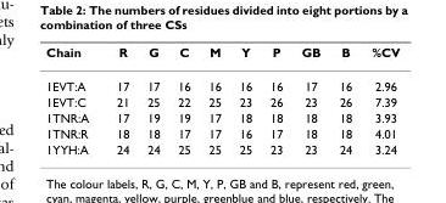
<table><thead><tr><td>Chain</td><td>R</td><td>G</td><td>C</td><td>M</td><td>Y</td><td>P</td><td>GB</td><td>B</td><td>%CV</td></tr></thead><tbody><tr><td>1EVT:A</td><td>17</td><td>17</td><td>16</td><td>16</td><td>16</td><td>16</td><td>17</td><td>16</td><td>2.96</td></tr><tr><td>1EVT:C</td><td>21</td><td>25</td><td>22</td><td>25</td><td>23</td><td>26</td><td>23</td><td>26</td><td>7.39</td></tr><tr><td>1TNR:A</td><td>17</td><td>19</td><td>19</td><td>17</td><td>18</td><td>18</td><td>18</td><td>18</td><td>3.93</td></tr><tr><td>1TNR:R</td><td>18</td><td>18</td><td>17</td><td>17</td><td>16</td><td>17</td><td>18</td><td>18</td><td>4.01</td></tr><tr><td>1YYH:A</td><td>24</td><td>24</td><td>25</td><td>25</td><td>25</td><td>23</td><td>23</td><td>24</td><td>3.24</td></tr></tbody></table>